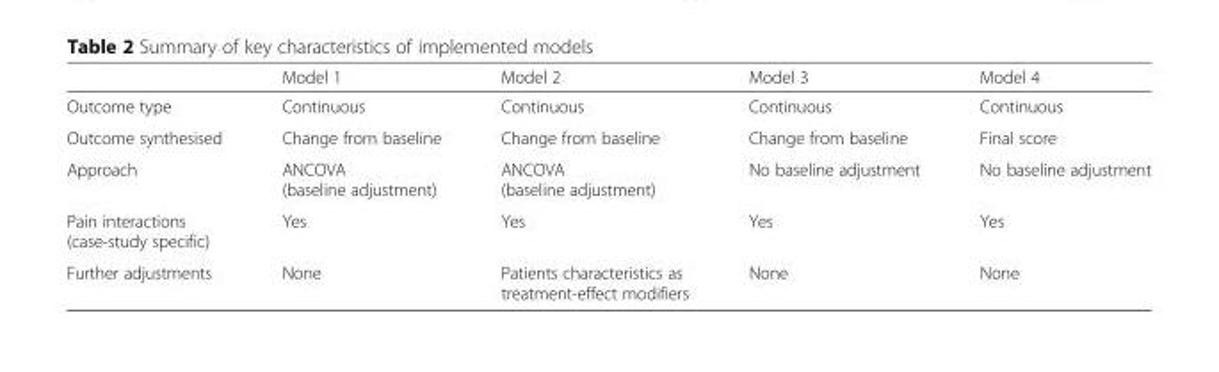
<table><thead><tr><td></td><td>Model 1</td><td>Model 2</td><td>Model 3</td><td>Model 4</td></tr></thead><tbody><tr><td>Outcome type</td><td>Continuous</td><td>Continuous</td><td>Continuous</td><td>Continuous</td></tr><tr><td>Outcome synthesised</td><td>Change from baseline</td><td>Change from baseline</td><td>Change from baseline</td><td>Final score</td></tr><tr><td>Approach</td><td>ANCOVA (baseline adjustment)</td><td>ANCOVA (baseline adjustment)</td><td>No baseline adjustment</td><td>No baseline adjustment</td></tr><tr><td>Pain interactions (case-study specific)</td><td>Yes</td><td>Yes</td><td>Yes</td><td>Yes</td></tr><tr><td>Further adjustments</td><td>None</td><td>Patients characteristics as treatment-effect modifiers</td><td>None</td><td>None</td></tr></tbody></table>